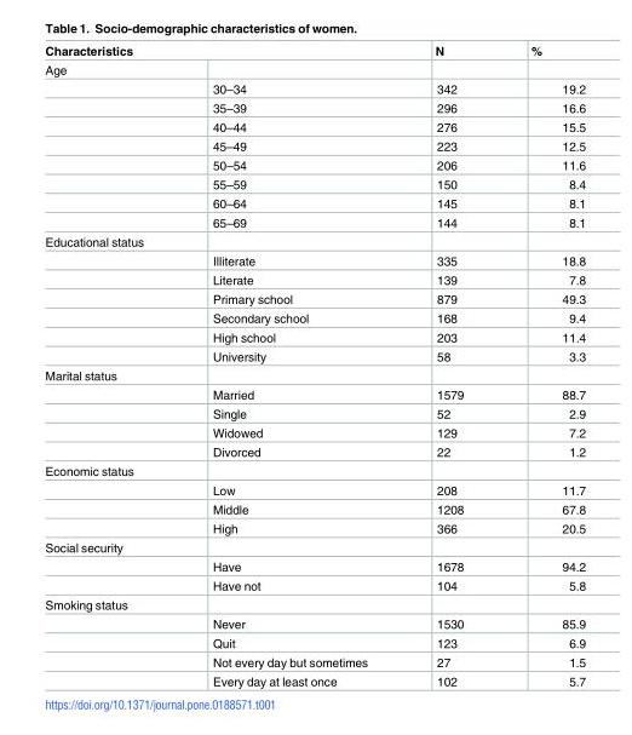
<table><thead><tr><td colspan="2">Characteristics</td><td rowspan="2">N</td><td rowspan="2">%</td></tr><tr><td>Age</td><td></td></tr></thead><tbody><tr><td></td><td>30–34</td><td>342</td><td>19.2</td></tr><tr><td></td><td>35–39</td><td>296</td><td>16.6</td></tr><tr><td></td><td>40–44</td><td>276</td><td>15.5</td></tr><tr><td></td><td>45–49</td><td>223</td><td>12.5</td></tr><tr><td></td><td>50–54</td><td>206</td><td>11.6</td></tr><tr><td></td><td>55–59</td><td>150</td><td>8.4</td></tr><tr><td></td><td>60–64</td><td>145</td><td>8.1</td></tr><tr><td></td><td>65–69</td><td>144</td><td>8.1</td></tr><tr><td colspan="4">Educational status</td></tr><tr><td></td><td>Illiterate</td><td>335</td><td>18.8</td></tr><tr><td></td><td>Literate</td><td>139</td><td>7.8</td></tr><tr><td></td><td>Primary school</td><td>879</td><td>49.3</td></tr><tr><td></td><td>Secondary school</td><td>168</td><td>9.4</td></tr><tr><td></td><td>High school</td><td>203</td><td>11.4</td></tr><tr><td></td><td>University</td><td>58</td><td>3.3</td></tr><tr><td colspan="4">Marital status</td></tr><tr><td></td><td>Married</td><td>1579</td><td>88.7</td></tr><tr><td></td><td>Single</td><td>52</td><td>2.9</td></tr><tr><td></td><td>Widowed</td><td>129</td><td>7.2</td></tr><tr><td></td><td>Divorced</td><td>22</td><td>1.2</td></tr><tr><td colspan="4">Economic status</td></tr><tr><td></td><td>Low</td><td>208</td><td>11.7</td></tr><tr><td></td><td>Middle</td><td>1208</td><td>67.8</td></tr><tr><td></td><td>High</td><td>366</td><td>20.5</td></tr><tr><td colspan="4">Social security</td></tr><tr><td></td><td>Have</td><td>1678</td><td>94.2</td></tr><tr><td></td><td>Have not</td><td>104</td><td>5.8</td></tr><tr><td colspan="4">Smoking status</td></tr><tr><td></td><td>Never</td><td>1530</td><td>85.9</td></tr><tr><td></td><td>Quit</td><td>123</td><td>6.9</td></tr><tr><td></td><td>Not every day but sometimes</td><td>27</td><td>1.5</td></tr><tr><td></td><td>Every day at least once</td><td>102</td><td>5.7</td></tr></tbody></table>